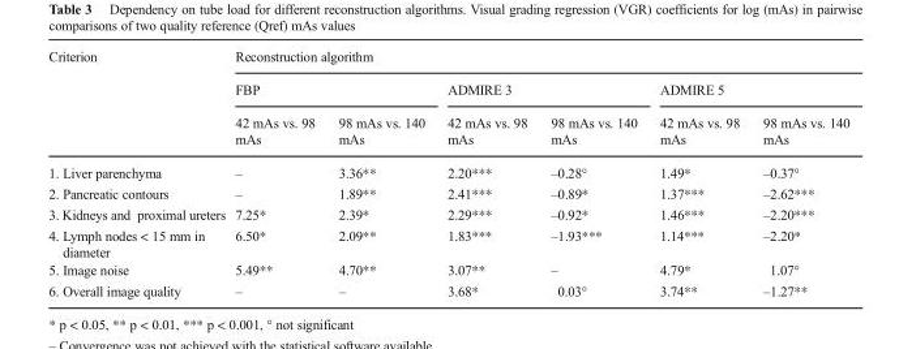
<table><thead><tr><td rowspan="3">Criterion</td><td colspan="6">Reconstruction algorithm</td></tr><tr><td colspan="2">FBP</td><td colspan="2">ADMIRE 3</td><td colspan="2">ADMIRE 5</td></tr><tr><td>42 mAs vs. 98 mAs</td><td>98 mAs vs. 140 mAs</td><td>42 mAs vs. 98 mAs</td><td>98 mAs vs. 140 mAs</td><td>42 mAs vs. 98 mAs</td><td>98 mAs vs. 140 mAs</td></tr></thead><tbody><tr><td>1. Liver parenchyma</td><td>–</td><td>3.36**</td><td>2.20***</td><td>–0.28°</td><td>1.49*</td><td>–0.37°</td></tr><tr><td>2. Pancreatic contours</td><td>–</td><td>1.89**</td><td>2.41***</td><td>–0.89*</td><td>1.37***</td><td>–2.62***</td></tr><tr><td>3. Kidneys and proximal ureters</td><td>7.25*</td><td>2.39*</td><td>2.29***</td><td>–0.92*</td><td>1.46***</td><td>–2.20***</td></tr><tr><td>4. Lymph nodes &lt; 15 mm in diameter</td><td>6.50*</td><td>2.09**</td><td>1.83***</td><td>–1.93***</td><td>1.14***</td><td>–2.20*</td></tr><tr><td>5. Image noise</td><td>5.49**</td><td>4.70**</td><td>3.07**</td><td>–</td><td>4.79*</td><td>1.07°</td></tr><tr><td>6. Overall image quality</td><td>–</td><td>–</td><td>3.68*</td><td>0.03°</td><td>3.74**</td><td>–1.27**</td></tr></tbody></table>